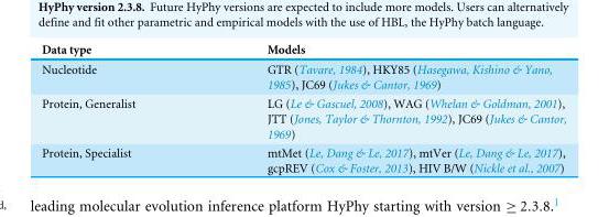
<table><thead><tr><td>Data type</td><td>Models</td></tr></thead><tbody><tr><td>Nucleotide</td><td>GTR (Tavare, 1984), HKY85 (Hasegawa, Kishino &amp; Yano, 1985), JC69 (Jukes &amp; Cantor, 1969)</td></tr><tr><td>Protein, Generalist</td><td>LG (Le &amp; Gascuel, 2008), WAG (Whelan &amp; Goldman, 2001), JTT (Jones, Taylor &amp; Thornton, 1992), JC69 (Jukes &amp; Cantor, 1969)</td></tr><tr><td>Protein, Specialist</td><td>mtMet (Le, Dang &amp; Le, 2017), mtVer (Le, Dang &amp; Le, 2017), gcpREV (Cox &amp; Foster, 2013), HIV B/W (Nickle et al., 2007)</td></tr></tbody></table>